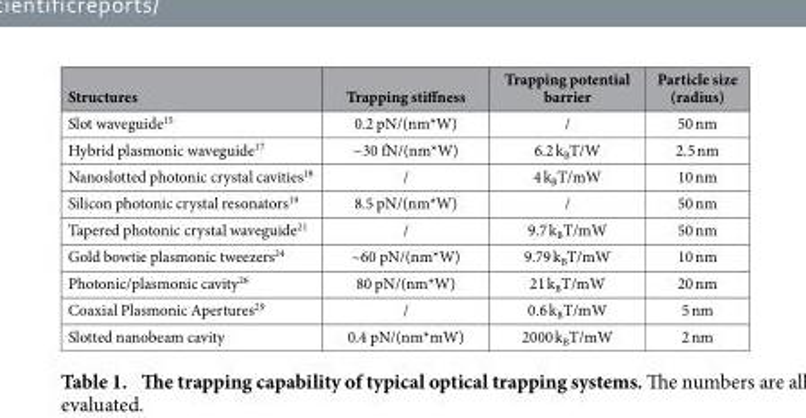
<table><thead><tr><td>Structures</td><td>Trapping stiffness</td><td>Trapping potential barrier</td><td>Particle size (radius)</td></tr></thead><tbody><tr><td>Slot waveguide<sup>15</sup></td><td>0.2 pN/(nm*W)</td><td>/</td><td>50 nm</td></tr><tr><td>Hybrid plasmonic waveguide<sup>17</sup></td><td>~30 fN/(nm*W)</td><td>6.2 k<sub>B</sub>T/W</td><td>2.5 nm</td></tr><tr><td>Nanoslotted photonic crystal cavities<sup>18</sup></td><td>/</td><td>4 k<sub>B</sub>T/mW</td><td>10 nm</td></tr><tr><td>Silicon photonic crystal resonators<sup>19</sup></td><td>8.5 pN/(nm*W)</td><td>/</td><td>50 nm</td></tr><tr><td>Tapered photonic crystal waveguide<sup>21</sup></td><td>/</td><td>9.7 k<sub>B</sub>T/mW</td><td>50 nm</td></tr><tr><td>Gold bowtie plasmonic tweezers<sup>24</sup></td><td>~60 pN/(nm*W)</td><td>9.79 k<sub>B</sub>T/mW</td><td>10 nm</td></tr><tr><td>Photonic/plasmonic cavity<sup>26</sup></td><td>80 pN/(nm*W)</td><td>21 k<sub>B</sub>T/mW</td><td>20 nm</td></tr><tr><td>Coaxial Plasmonic Apertures<sup>29</sup></td><td>/</td><td>0.6 k<sub>B</sub>T/mW</td><td>5 nm</td></tr><tr><td>Slotted nanobeam cavity</td><td>0.4 pN/(nm*mW)</td><td>2000 k<sub>B</sub>T/mW</td><td>2 nm</td></tr></tbody></table>